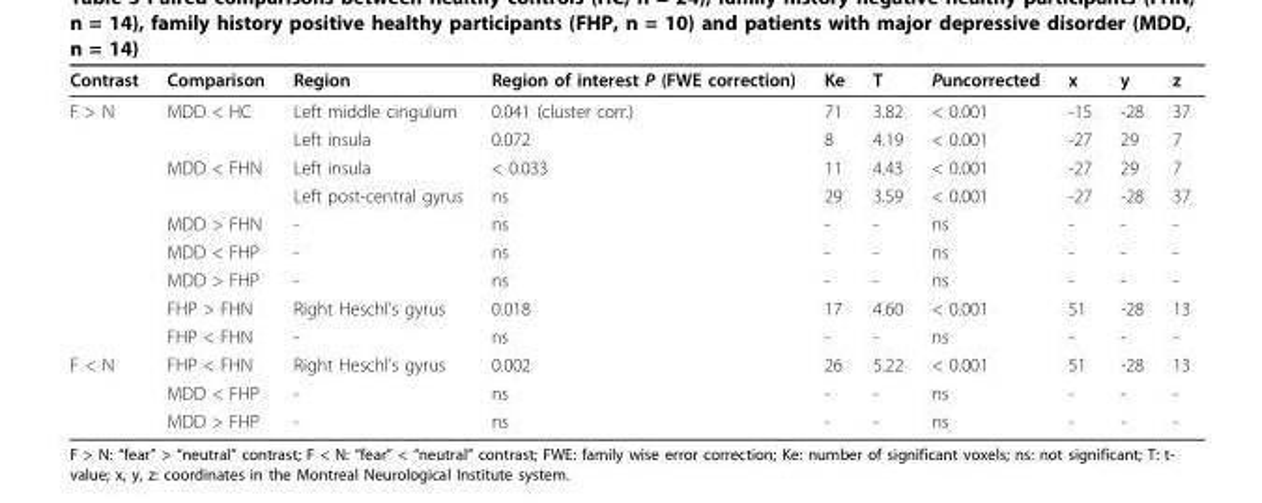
<table><thead><tr><td>Contrast</td><td>Comparison</td><td>Region</td><td>Region of interest P (FWE correction)</td><td>Ke</td><td>T</td><td>Puncorrected</td><td>x</td><td>y</td><td>z</td></tr></thead><tbody><tr><td rowspan="9">F &gt; N</td><td>MDD &lt; HC</td><td>Left middle cingulum</td><td>0.041 (cluster corr.)</td><td>71</td><td>3.82</td><td>&lt; 0.001</td><td>-15</td><td>-28</td><td>37</td></tr><tr><td></td><td>Left insula</td><td>0.072</td><td>8</td><td>4.19</td><td>&lt; 0.001</td><td>-27</td><td>29</td><td>7</td></tr><tr><td>MDD &lt; FHN</td><td>Left insula</td><td>&lt; 0.033</td><td>11</td><td>4.43</td><td>&lt; 0.001</td><td>-27</td><td>29</td><td>7</td></tr><tr><td></td><td>Left post-central gyrus</td><td>ns</td><td>29</td><td>3.59</td><td>&lt; 0.001</td><td>-27</td><td>-28</td><td>37</td></tr><tr><td>MDD &gt; FHN</td><td>-</td><td>ns</td><td>-</td><td>-</td><td>ns</td><td>-</td><td>-</td><td>-</td></tr><tr><td>MDD &lt; FHP</td><td>-</td><td>ns</td><td>-</td><td>-</td><td>ns</td><td>-</td><td>-</td><td>-</td></tr><tr><td>MDD &gt; FHP</td><td>-</td><td>ns</td><td>-</td><td>-</td><td>ns</td><td>-</td><td>-</td><td>-</td></tr><tr><td>FHP &gt; FHN</td><td>Right Heschl’s gyrus</td><td>0.018</td><td>17</td><td>4.60</td><td>&lt; 0.001</td><td>51</td><td>-28</td><td>13</td></tr><tr><td>FHP &lt; FHN</td><td>-</td><td>ns</td><td>-</td><td>-</td><td>ns</td><td>-</td><td>-</td><td>-</td></tr><tr><td rowspan="3">F &lt; N</td><td>FHP &lt; FHN</td><td>Right Heschl’s gyrus</td><td>0.002</td><td>26</td><td>5.22</td><td>&lt; 0.001</td><td>51</td><td>-28</td><td>13</td></tr><tr><td>MDD &lt; FHP</td><td>-</td><td>ns</td><td>-</td><td>-</td><td>ns</td><td>-</td><td>-</td><td>-</td></tr><tr><td>MDD &gt; FHP</td><td>-</td><td>ns</td><td>-</td><td>-</td><td>ns</td><td>-</td><td>-</td><td>-</td></tr></tbody></table>